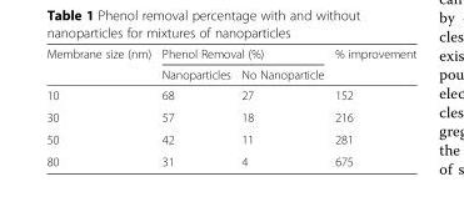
<table><thead><tr><td rowspan="2">Membrane size (nm)</td><td colspan="2">Phenol Removal (%)</td><td rowspan="2">% improvement</td></tr><tr><td>Nanoparticles</td><td>No Nanoparticle</td></tr></thead><tbody><tr><td>10</td><td>68</td><td>27</td><td>152</td></tr><tr><td>30</td><td>57</td><td>18</td><td>216</td></tr><tr><td>50</td><td>42</td><td>11</td><td>281</td></tr><tr><td>80</td><td>31</td><td>4</td><td>675</td></tr></tbody></table>